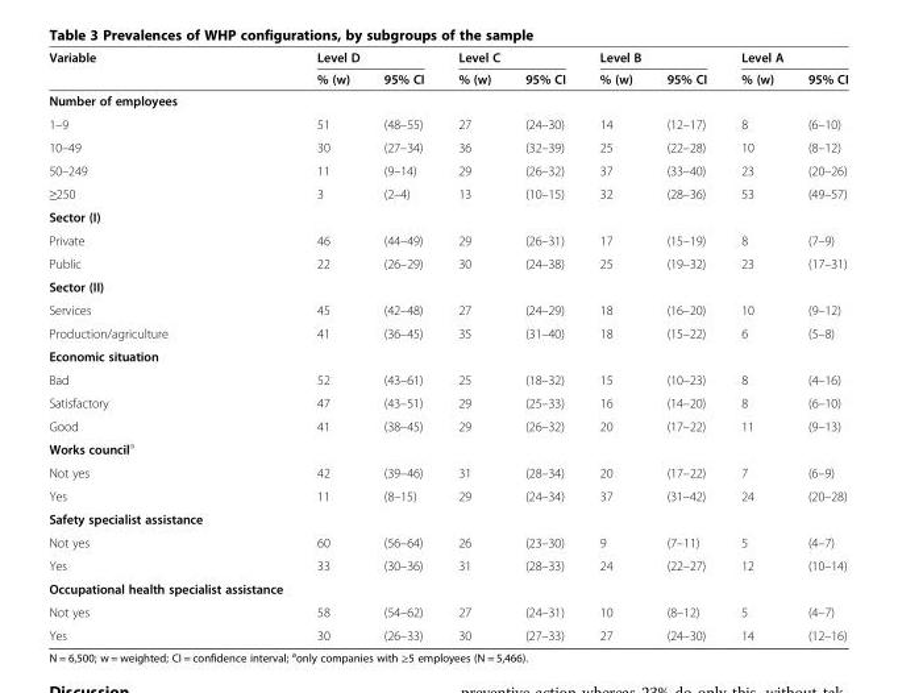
<table><thead><tr><td rowspan="2">Variable</td><td colspan="2">Level D</td><td colspan="2">Level C</td><td colspan="2">Level B</td><td colspan="2">Level A</td></tr><tr><td>% (w)</td><td>95% CI</td><td>% (w)</td><td>95% CI</td><td>% (w)</td><td>95% CI</td><td>% (w)</td><td>95% CI</td></tr></thead><tbody><tr><td colspan="9">Number of employees</td></tr><tr><td>1–9</td><td>51</td><td>(48–55)</td><td>27</td><td>(24–30)</td><td>14</td><td>(12–17)</td><td>8</td><td>(6–10)</td></tr><tr><td>10–49</td><td>30</td><td>(27–34)</td><td>36</td><td>(32–39)</td><td>25</td><td>(22–28)</td><td>10</td><td>(8–12)</td></tr><tr><td>50–249</td><td>11</td><td>(9–14)</td><td>29</td><td>(26–32)</td><td>37</td><td>(33–40)</td><td>23</td><td>(20–26)</td></tr><tr><td>≥250</td><td>3</td><td>(2–4)</td><td>13</td><td>(10–15)</td><td>32</td><td>(28–36)</td><td>53</td><td>(49–57)</td></tr><tr><td colspan="9">Sector (I)</td></tr><tr><td>Private</td><td>46</td><td>(44–49)</td><td>29</td><td>(26–31)</td><td>17</td><td>(15–19)</td><td>8</td><td>(7–9)</td></tr><tr><td>Public</td><td>22</td><td>(26–29)</td><td>30</td><td>(24–38)</td><td>25</td><td>(19–32)</td><td>23</td><td>(17–31)</td></tr><tr><td colspan="9">Sector (II)</td></tr><tr><td>Services</td><td>45</td><td>(42–48)</td><td>27</td><td>(24–29)</td><td>18</td><td>(16–20)</td><td>10</td><td>(9–12)</td></tr><tr><td>Production/agriculture</td><td>41</td><td>(36–45)</td><td>35</td><td>(31–40)</td><td>18</td><td>(15–22)</td><td>6</td><td>(5–8)</td></tr><tr><td colspan="9">Economic situation</td></tr><tr><td>Bad</td><td>52</td><td>(43–61)</td><td>25</td><td>(18–32)</td><td>15</td><td>(10–23)</td><td>8</td><td>(4–16)</td></tr><tr><td>Satisfactory</td><td>47</td><td>(43–51)</td><td>29</td><td>(25–33)</td><td>16</td><td>(14–20)</td><td>8</td><td>(6–10)</td></tr><tr><td>Good</td><td>41</td><td>(38–45)</td><td>29</td><td>(26–32)</td><td>20</td><td>(17–22)</td><td>11</td><td>(9–13)</td></tr><tr><td colspan="9">Works council<sup>a</sup></td></tr><tr><td>Not yes</td><td>42</td><td>(39–46)</td><td>31</td><td>(28–34)</td><td>20</td><td>(17–22)</td><td>7</td><td>(6–9)</td></tr><tr><td>Yes</td><td>11</td><td>(8–15)</td><td>29</td><td>(24–34)</td><td>37</td><td>(31–42)</td><td>24</td><td>(20–28)</td></tr><tr><td colspan="9">Safety specialist assistance</td></tr><tr><td>Not yes</td><td>60</td><td>(56–64)</td><td>26</td><td>(23–30)</td><td>9</td><td>(7–11)</td><td>5</td><td>(4–7)</td></tr><tr><td>Yes</td><td>33</td><td>(30–36)</td><td>31</td><td>(28–33)</td><td>24</td><td>(22–27)</td><td>12</td><td>(10–14)</td></tr><tr><td colspan="9">Occupational health specialist assistance</td></tr><tr><td>Not yes</td><td>58</td><td>(54–62)</td><td>27</td><td>(24–31)</td><td>10</td><td>(8–12)</td><td>5</td><td>(4–7)</td></tr><tr><td>Yes</td><td>30</td><td>(26–33)</td><td>30</td><td>(27–33)</td><td>27</td><td>(24–30)</td><td>14</td><td>(12–16)</td></tr></tbody></table>